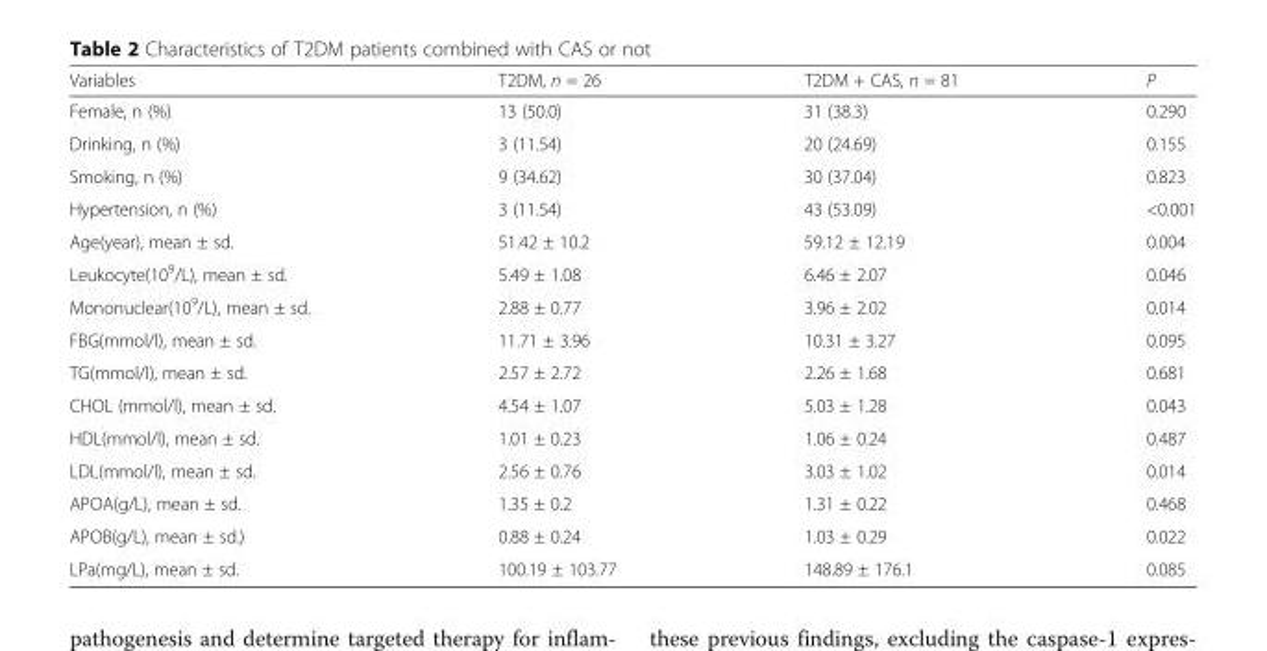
<table><thead><tr><td>Variables</td><td>T2DM, n = 26</td><td>T2DM + CAS, n = 81</td><td>P</td></tr></thead><tbody><tr><td>Female, n (%)</td><td>13 (50.0)</td><td>31 (38.3)</td><td>0.290</td></tr><tr><td>Drinking, n (%)</td><td>3 (11.54)</td><td>20 (24.69)</td><td>0.155</td></tr><tr><td>Smoking, n (%)</td><td>9 (34.62)</td><td>30 (37.04)</td><td>0.823</td></tr><tr><td>Hypertension, n (%)</td><td>3 (11.54)</td><td>43 (53.09)</td><td>&lt;0.001</td></tr><tr><td>Age(year), mean ± sd.</td><td>51.42 ± 10.2</td><td>59.12 ± 12.19</td><td>0.004</td></tr><tr><td>Leukocyte(10<sup>9</sup>/L), mean ± sd.</td><td>5.49 ± 1.08</td><td>6.46 ± 2.07</td><td>0.046</td></tr><tr><td>Mononuclear(10<sup>9</sup>/L), mean ± sd.</td><td>2.88 ± 0.77</td><td>3.96 ± 2.02</td><td>0.014</td></tr><tr><td>FBG(mmol/l), mean ± sd.</td><td>11.71 ± 3.96</td><td>10.31 ± 3.27</td><td>0.095</td></tr><tr><td>TG(mmol/l), mean ± sd.</td><td>2.57 ± 2.72</td><td>2.26 ± 1.68</td><td>0.681</td></tr><tr><td>CHOL (mmol/l), mean ± sd.</td><td>4.54 ± 1.07</td><td>5.03 ± 1.28</td><td>0.043</td></tr><tr><td>HDL(mmol/l), mean ± sd.</td><td>1.01 ± 0.23</td><td>1.06 ± 0.24</td><td>0.487</td></tr><tr><td>LDL(mmol/l), mean ± sd.</td><td>2.56 ± 0.76</td><td>3.03 ± 1.02</td><td>0.014</td></tr><tr><td>APOA(g/L), mean ± sd.</td><td>1.35 ± 0.2</td><td>1.31 ± 0.22</td><td>0.468</td></tr><tr><td>APOB(g/L), mean ± sd.)</td><td>0.88 ± 0.24</td><td>1.03 ± 0.29</td><td>0.022</td></tr><tr><td>LPa(mg/L), mean ± sd.</td><td>100.19 ± 103.77</td><td>148.89 ± 176.1</td><td>0.085</td></tr></tbody></table>